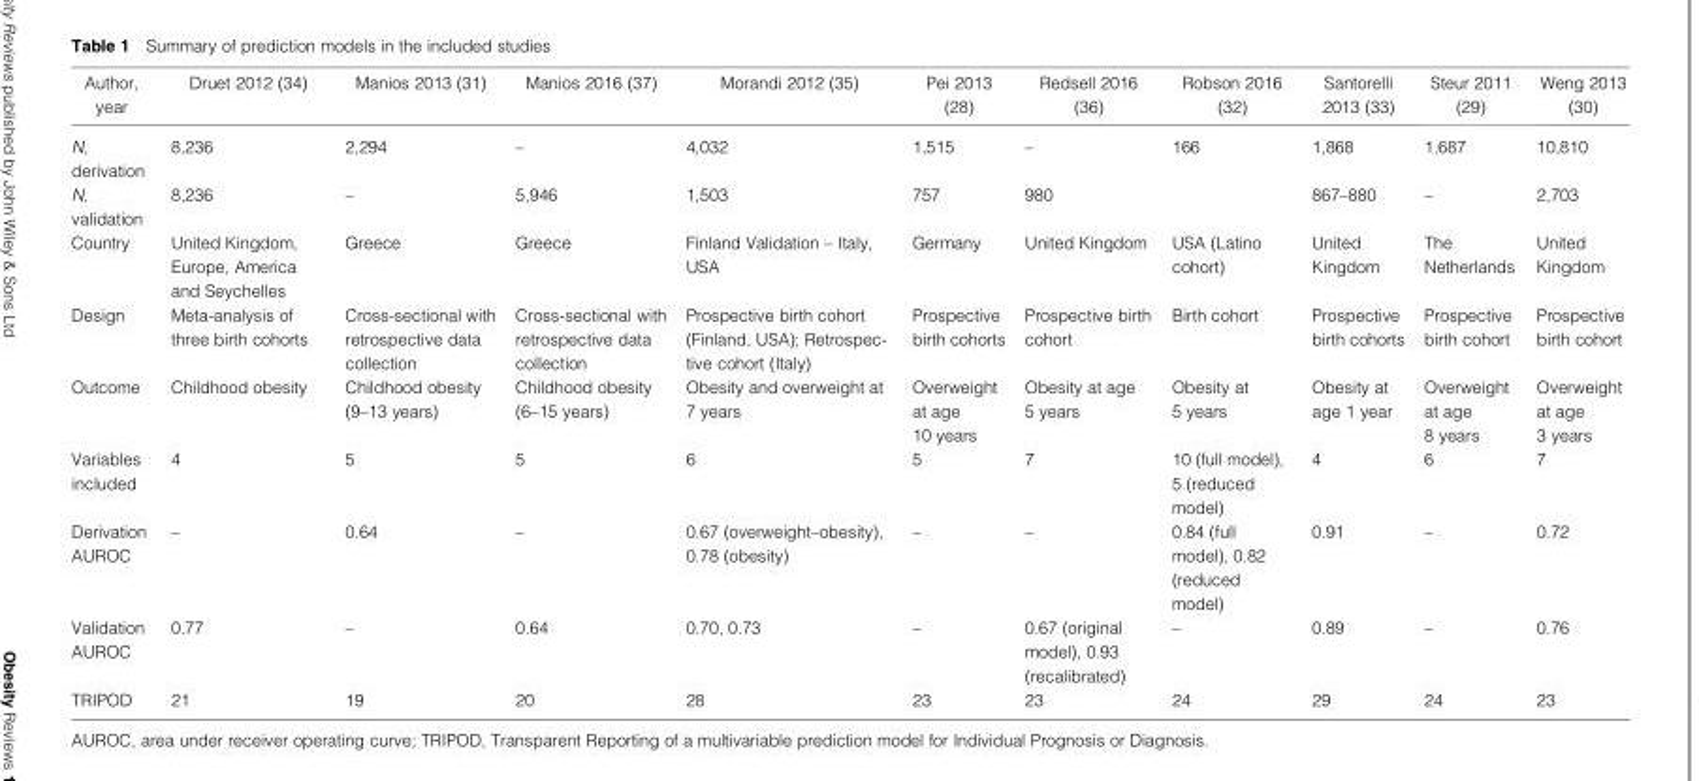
<table><thead><tr><td>Author, year</td><td>Druet 2012 (34)</td><td>Manios 2013 (31)</td><td>Manios 2016 (37)</td><td>Morandi 2012 (35)</td><td>Pei 2013 (28)</td><td>Redsell 2016 (36)</td><td>Robson 2016 (32)</td><td>Santorelli 2013 (33)</td><td>Steur 2011 (29)</td><td>Weng 2013 (30)</td></tr></thead><tbody><tr><td>N, derivation</td><td>8,236</td><td>2,294</td><td>–</td><td>4,032</td><td>1,515</td><td>–</td><td>166</td><td>1,868</td><td>1,687</td><td>10,810</td></tr><tr><td>N, validation</td><td>8,236</td><td>–</td><td>5,946</td><td>1,503</td><td>757</td><td>980</td><td></td><td>867–880</td><td>–</td><td>2,703</td></tr><tr><td>Country</td><td>United Kingdom, Europe, America and Seychelles</td><td>Greece</td><td>Greece</td><td>Finland Validation – Italy, USA</td><td>Germany</td><td>United Kingdom</td><td>USA (Latino cohort)</td><td>United Kingdom</td><td>The Netherlands</td><td>United Kingdom</td></tr><tr><td>Design</td><td>Meta-analysis of three birth cohorts</td><td>Cross-sectional with retrospective data collection</td><td>Cross-sectional with retrospective data collection</td><td>Prospective birth cohort (Finland, USA); Retrospec- tive cohort (Italy)</td><td>Prospective birth cohorts</td><td>Prospective birth cohort</td><td>Birth cohort</td><td>Prospective birth cohorts</td><td>Prospective birth cohort</td><td>Prospective birth cohort</td></tr><tr><td>Outcome</td><td>Childhood obesity</td><td>Childhood obesity (9–13 years)</td><td>Childhood obesity (6–15 years)</td><td>Obesity and overweight at 7 years</td><td>Overweight at age 10 years</td><td>Obesity at age 5 years</td><td>Obesity at 5 years</td><td>Obesity at age 1 year</td><td>Overweight at age 8 years</td><td>Overweight at age 3 years</td></tr><tr><td>Variables included</td><td>4</td><td>5</td><td>5</td><td>6</td><td>5</td><td>7</td><td>10 (full model), 5 (reduced model)</td><td>4</td><td>6</td><td>7</td></tr><tr><td>Derivation AUROC</td><td>–</td><td>0.64</td><td>–</td><td>0.67 (overweight–obesity), 0.78 (obesity)</td><td>–</td><td>–</td><td>0.84 (full model), 0.82 (reduced model)</td><td>0.91</td><td>–</td><td>0.72</td></tr><tr><td>Validation AUROC</td><td>0.77</td><td>–</td><td>0.64</td><td>0.70, 0.73</td><td>–</td><td>0.67 (original model), 0.93 (recalibrated)</td><td>–</td><td>0.89</td><td>–</td><td>0.76</td></tr><tr><td>TRIPOD</td><td>21</td><td>19</td><td>20</td><td>28</td><td>23</td><td>23</td><td>24</td><td>29</td><td>24</td><td>23</td></tr></tbody></table>